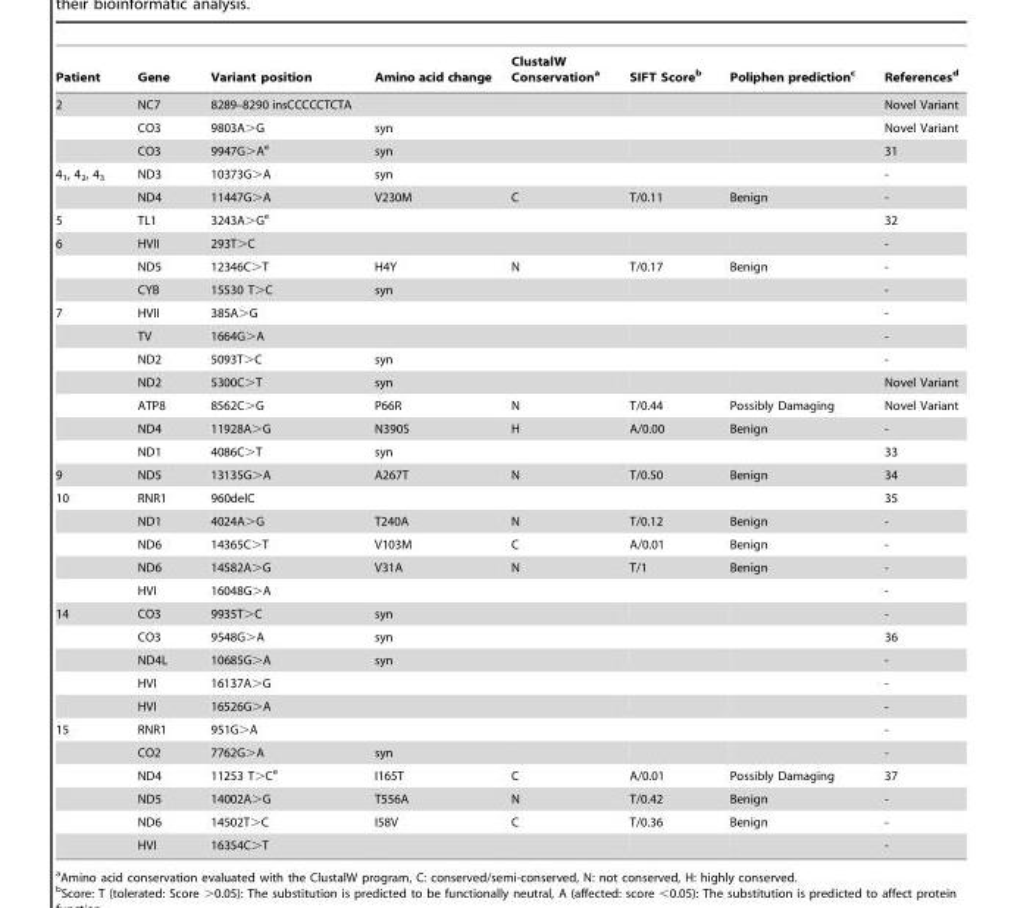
<table><thead><tr><td>Patient</td><td>Gene</td><td>Variant position</td><td>Amino acid change</td><td>ClustalW Conservation<sup>a</sup></td><td>SIFT Score<sup>b</sup></td><td>Poliphen prediction<sup>c</sup></td><td>References<sup>d</sup></td></tr></thead><tbody><tr><td rowspan="3">2</td><td>NC7</td><td>8289–8290 insCCCCCTCTA</td><td></td><td></td><td></td><td></td><td>Novel Variant</td></tr><tr><td>CO3</td><td>9803A&gt;G</td><td>syn</td><td></td><td></td><td></td><td>Novel Variant</td></tr><tr><td>CO3</td><td>9947G&gt;A<sup>e</sup></td><td>syn</td><td></td><td></td><td></td><td>31</td></tr><tr><td rowspan="2">4<sub>1</sub>, 4<sub>2</sub>, 4<sub>3</sub></td><td>ND3</td><td>10373G&gt;A</td><td>syn</td><td></td><td></td><td></td><td>-</td></tr><tr><td>ND4</td><td>11447G&gt;A</td><td>V230M</td><td>C</td><td>T/0.11</td><td>Benign</td><td>-</td></tr><tr><td>5</td><td>TL1</td><td>3243A&gt;G<sup>e</sup></td><td></td><td></td><td></td><td></td><td>32</td></tr><tr><td rowspan="3">6</td><td>HVII</td><td>293T&gt;C</td><td></td><td></td><td></td><td></td><td>-</td></tr><tr><td>ND5</td><td>12346C&gt;T</td><td>H4Y</td><td>N</td><td>T/0.17</td><td>Benign</td><td>-</td></tr><tr><td>CYB</td><td>15530 T&gt;C</td><td>syn</td><td></td><td></td><td></td><td>-</td></tr><tr><td rowspan="7">7</td><td>HVII</td><td>385A&gt;G</td><td></td><td></td><td></td><td></td><td>-</td></tr><tr><td>TV</td><td>1664G&gt;A</td><td></td><td></td><td></td><td></td><td>-</td></tr><tr><td>ND2</td><td>5093T&gt;C</td><td>syn</td><td></td><td></td><td></td><td>-</td></tr><tr><td>ND2</td><td>5300C&gt;T</td><td>syn</td><td></td><td></td><td></td><td>Novel Variant</td></tr><tr><td>ATP8</td><td>8562C&gt;G</td><td>P66R</td><td>N</td><td>T/0.44</td><td>Possibly Damaging</td><td>Novel Variant</td></tr><tr><td>ND4</td><td>11928A&gt;G</td><td>N390S</td><td>H</td><td>A/0.00</td><td>Benign</td><td>-</td></tr><tr><td>ND1</td><td>4086C&gt;T</td><td>syn</td><td></td><td></td><td></td><td>33</td></tr><tr><td>9</td><td>ND5</td><td>13135G&gt;A</td><td>A267T</td><td>N</td><td>T/0.50</td><td>Benign</td><td>34</td></tr><tr><td rowspan="5">10</td><td>RNR1</td><td>960delC</td><td></td><td></td><td></td><td></td><td>35</td></tr><tr><td>ND1</td><td>4024A&gt;G</td><td>T240A</td><td>N</td><td>T/0.12</td><td>Benign</td><td>-</td></tr><tr><td>ND6</td><td>14365C&gt;T</td><td>V103M</td><td>C</td><td>A/0.01</td><td>Benign</td><td>-</td></tr><tr><td>ND6</td><td>14582A&gt;G</td><td>V31A</td><td>N</td><td>T/1</td><td>Benign</td><td>-</td></tr><tr><td>HVI</td><td>16048G&gt;A</td><td></td><td></td><td></td><td></td><td>-</td></tr><tr><td rowspan="5">14</td><td>CO3</td><td>9935T&gt;C</td><td>syn</td><td></td><td></td><td></td><td>-</td></tr><tr><td>CO3</td><td>9548G&gt;A</td><td>syn</td><td></td><td></td><td></td><td>36</td></tr><tr><td>ND4L</td><td>10685G&gt;A</td><td>syn</td><td></td><td></td><td></td><td>-</td></tr><tr><td>HVI</td><td>16137A&gt;G</td><td></td><td></td><td></td><td></td><td>-</td></tr><tr><td>HVI</td><td>16526G&gt;A</td><td></td><td></td><td></td><td></td><td>-</td></tr><tr><td rowspan="6">15</td><td>RNR1</td><td>951G&gt;A</td><td></td><td></td><td></td><td></td><td>-</td></tr><tr><td>CO2</td><td>7762G&gt;A</td><td>syn</td><td></td><td></td><td></td><td>-</td></tr><tr><td>ND4</td><td>11253 T&gt;C<sup>e</sup></td><td>I165T</td><td>C</td><td>A/0.01</td><td>Possibly Damaging</td><td>37</td></tr><tr><td>ND5</td><td>14002A&gt;G</td><td>T556A</td><td>N</td><td>T/0.42</td><td>Benign</td><td>-</td></tr><tr><td>ND6</td><td>14502T&gt;C</td><td>I58V</td><td>C</td><td>T/0.36</td><td>Benign</td><td>-</td></tr><tr><td>HVI</td><td>16354C&gt;T</td><td></td><td></td><td></td><td></td><td>-</td></tr></tbody></table>